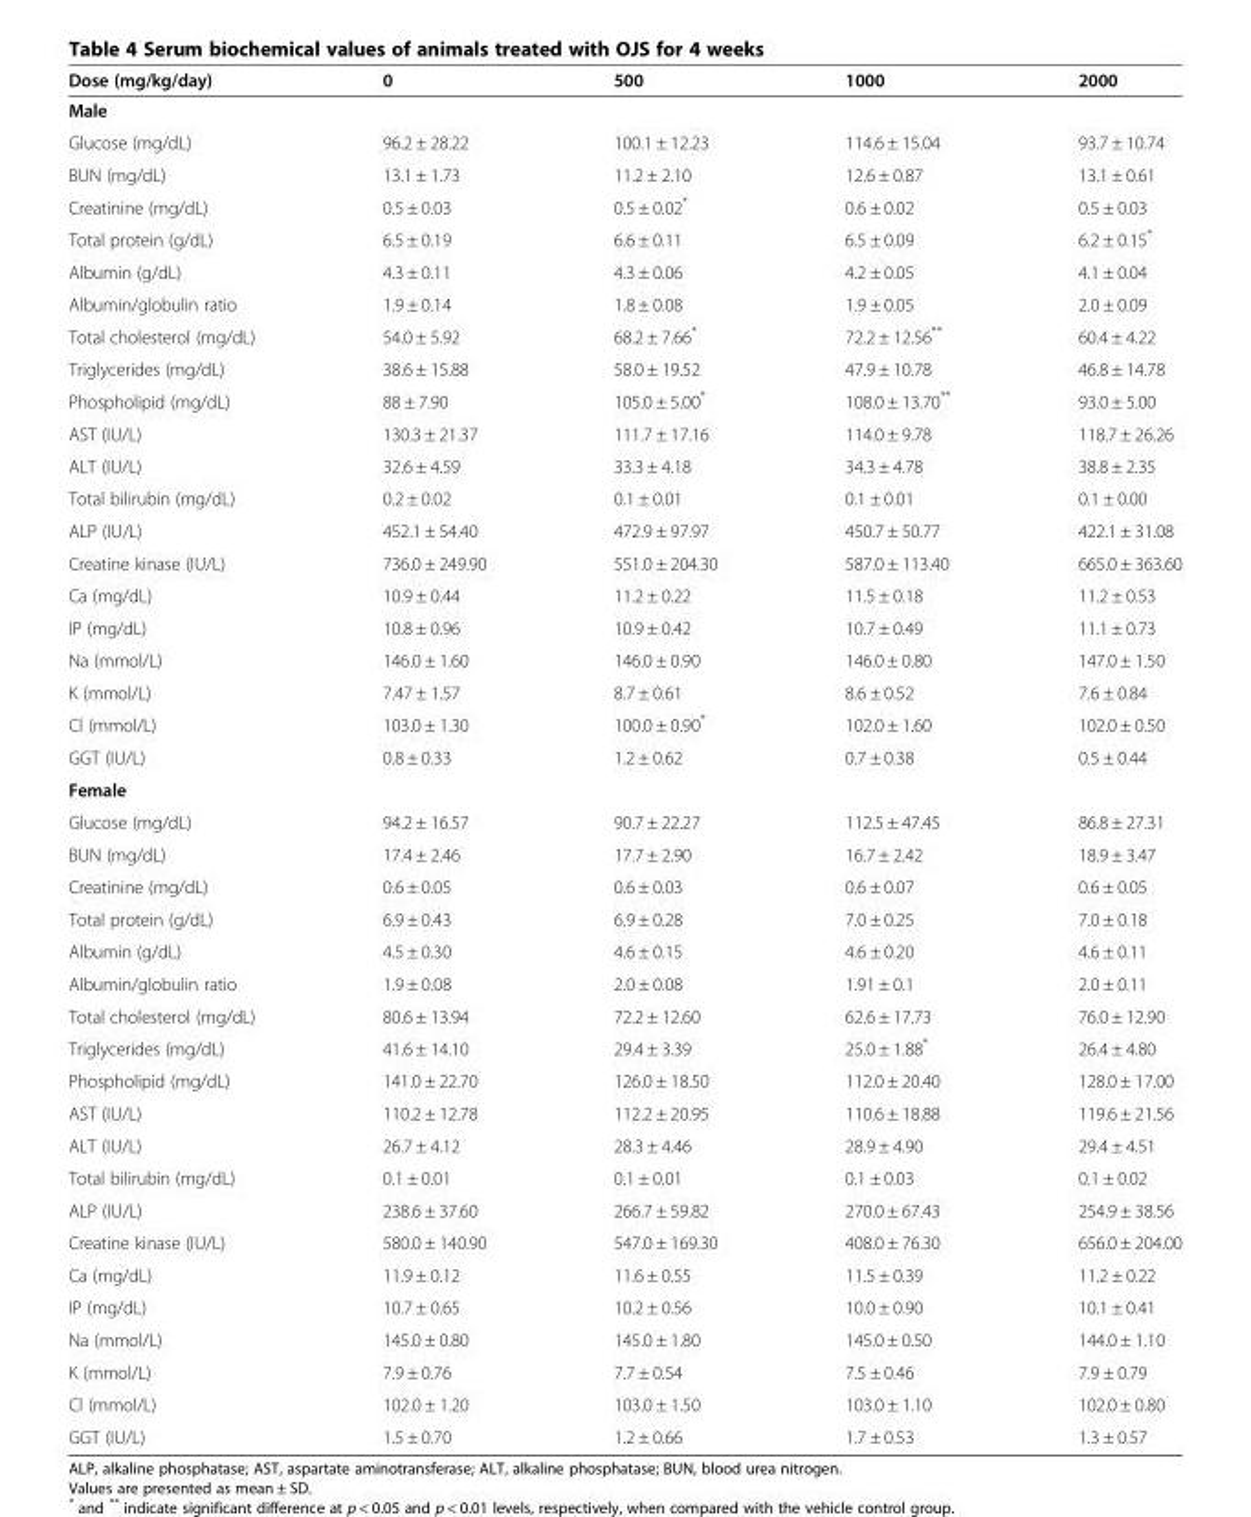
<table><thead><tr><td>Dose (mg/kg/day)</td><td>0</td><td>500</td><td>1000</td><td>2000</td></tr></thead><tbody><tr><td colspan="5">Male</td></tr><tr><td>Glucose (mg/dL)</td><td>96.2 ± 28.22</td><td>100.1 ± 12.23</td><td>114.6 ± 15.04</td><td>93.7 ± 10.74</td></tr><tr><td>BUN (mg/dL)</td><td>13.1 ± 1.73</td><td>11.2 ± 2.10</td><td>12.6 ± 0.87</td><td>13.1 ± 0.61</td></tr><tr><td>Creatinine (mg/dL)</td><td>0.5 ± 0.03</td><td>0.5 ± 0.02*</td><td>0.6 ± 0.02</td><td>0.5 ± 0.03</td></tr><tr><td>Total protein (g/dL)</td><td>6.5 ± 0.19</td><td>6.6 ± 0.11</td><td>6.5 ± 0.09</td><td>6.2 ± 0.15*</td></tr><tr><td>Albumin (g/dL)</td><td>4.3 ± 0.11</td><td>4.3 ± 0.06</td><td>4.2 ± 0.05</td><td>4.1 ± 0.04</td></tr><tr><td>Albumin/globulin ratio</td><td>1.9 ± 0.14</td><td>1.8 ± 0.08</td><td>1.9 ± 0.05</td><td>2.0 ± 0.09</td></tr><tr><td>Total cholesterol (mg/dL)</td><td>54.0 ± 5.92</td><td>68.2 ± 7.66*</td><td>72.2 ± 12.56**</td><td>60.4 ± 4.22</td></tr><tr><td>Triglycerides (mg/dL)</td><td>38.6 ± 15.88</td><td>58.0 ± 19.52</td><td>47.9 ± 10.78</td><td>46.8 ± 14.78</td></tr><tr><td>Phospholipid (mg/dL)</td><td>88 ± 7.90</td><td>105.0 ± 5.00*</td><td>108.0 ± 13.70**</td><td>93.0 ± 5.00</td></tr><tr><td>AST (IU/L)</td><td>130.3 ± 21.37</td><td>111.7 ± 17.16</td><td>114.0 ± 9.78</td><td>118.7 ± 26.26</td></tr><tr><td>ALT (IU/L)</td><td>32.6 ± 4.59</td><td>33.3 ± 4.18</td><td>34.3 ± 4.78</td><td>38.8 ± 2.35</td></tr><tr><td>Total bilirubin (mg/dL)</td><td>0.2 ± 0.02</td><td>0.1 ± 0.01</td><td>0.1 ± 0.01</td><td>0.1 ± 0.00</td></tr><tr><td>ALP (IU/L)</td><td>452.1 ± 54.40</td><td>472.9 ± 97.97</td><td>450.7 ± 50.77</td><td>422.1 ± 31.08</td></tr><tr><td>Creatine kinase (IU/L)</td><td>736.0 ± 249.90</td><td>551.0 ± 204.30</td><td>587.0 ± 113.40</td><td>665.0 ± 363.60</td></tr><tr><td>Ca (mg/dL)</td><td>10.9 ± 0.44</td><td>11.2 ± 0.22</td><td>11.5 ± 0.18</td><td>11.2 ± 0.53</td></tr><tr><td>IP (mg/dL)</td><td>10.8 ± 0.96</td><td>10.9 ± 0.42</td><td>10.7 ± 0.49</td><td>11.1 ± 0.73</td></tr><tr><td>Na (mmol/L)</td><td>146.0 ± 1.60</td><td>146.0 ± 0.90</td><td>146.0 ± 0.80</td><td>147.0 ± 1.50</td></tr><tr><td>K (mmol/L)</td><td>7.47 ± 1.57</td><td>8.7 ± 0.61</td><td>8.6 ± 0.52</td><td>7.6 ± 0.84</td></tr><tr><td>Cl (mmol/L)</td><td>103.0 ± 1.30</td><td>100.0 ± 0.90*</td><td>102.0 ± 1.60</td><td>102.0 ± 0.50</td></tr><tr><td>GGT (IU/L)</td><td>0.8 ± 0.33</td><td>1.2 ± 0.62</td><td>0.7 ± 0.38</td><td>0.5 ± 0.44</td></tr><tr><td colspan="5">Female</td></tr><tr><td>Glucose (mg/dL)</td><td>94.2 ± 16.57</td><td>90.7 ± 22.27</td><td>112.5 ± 47.45</td><td>86.8 ± 27.31</td></tr><tr><td>BUN (mg/dL)</td><td>17.4 ± 2.46</td><td>17.7 ± 2.90</td><td>16.7 ± 2.42</td><td>18.9 ± 3.47</td></tr><tr><td>Creatinine (mg/dL)</td><td>0.6 ± 0.05</td><td>0.6 ± 0.03</td><td>0.6 ± 0.07</td><td>0.6 ± 0.05</td></tr><tr><td>Total protein (g/dL)</td><td>6.9 ± 0.43</td><td>6.9 ± 0.28</td><td>7.0 ± 0.25</td><td>7.0 ± 0.18</td></tr><tr><td>Albumin (g/dL)</td><td>4.5 ± 0.30</td><td>4.6 ± 0.15</td><td>4.6 ± 0.20</td><td>4.6 ± 0.11</td></tr><tr><td>Albumin/globulin ratio</td><td>1.9 ± 0.08</td><td>2.0 ± 0.08</td><td>1.91 ± 0.1</td><td>2.0 ± 0.11</td></tr><tr><td>Total cholesterol (mg/dL)</td><td>80.6 ± 13.94</td><td>72.2 ± 12.60</td><td>62.6 ± 17.73</td><td>76.0 ± 12.90</td></tr><tr><td>Triglycerides (mg/dL)</td><td>41.6 ± 14.10</td><td>29.4 ± 3.39</td><td>25.0 ± 1.88*</td><td>26.4 ± 4.80</td></tr><tr><td>Phospholipid (mg/dL)</td><td>141.0 ± 22.70</td><td>126.0 ± 18.50</td><td>112.0 ± 20.40</td><td>128.0 ± 17.00</td></tr><tr><td>AST (IU/L)</td><td>110.2 ± 12.78</td><td>112.2 ± 20.95</td><td>110.6 ± 18.88</td><td>119.6 ± 21.56</td></tr><tr><td>ALT (IU/L)</td><td>26.7 ± 4.12</td><td>28.3 ± 4.46</td><td>28.9 ± 4.90</td><td>29.4 ± 4.51</td></tr><tr><td>Total bilirubin (mg/dL)</td><td>0.1 ± 0.01</td><td>0.1 ± 0.01</td><td>0.1 ± 0.03</td><td>0.1 ± 0.02</td></tr><tr><td>ALP (IU/L)</td><td>238.6 ± 37.60</td><td>266.7 ± 59.82</td><td>270.0 ± 67.43</td><td>254.9 ± 38.56</td></tr><tr><td>Creatine kinase (IU/L)</td><td>580.0 ± 140.90</td><td>547.0 ± 169.30</td><td>408.0 ± 76.30</td><td>656.0 ± 204.00</td></tr><tr><td>Ca (mg/dL)</td><td>11.9 ± 0.12</td><td>11.6 ± 0.55</td><td>11.5 ± 0.39</td><td>11.2 ± 0.22</td></tr><tr><td>IP (mg/dL)</td><td>10.7 ± 0.65</td><td>10.2 ± 0.56</td><td>10.0 ± 0.90</td><td>10.1 ± 0.41</td></tr><tr><td>Na (mmol/L)</td><td>145.0 ± 0.80</td><td>145.0 ± 1.80</td><td>145.0 ± 0.50</td><td>144.0 ± 1.10</td></tr><tr><td>K (mmol/L)</td><td>7.9 ± 0.76</td><td>7.7 ± 0.54</td><td>7.5 ± 0.46</td><td>7.9 ± 0.79</td></tr><tr><td>Cl (mmol/L)</td><td>102.0 ± 1.20</td><td>103.0 ± 1.50</td><td>103.0 ± 1.10</td><td>102.0 ± 0.80</td></tr><tr><td>GGT (IU/L)</td><td>1.5 ± 0.70</td><td>1.2 ± 0.66</td><td>1.7 ± 0.53</td><td>1.3 ± 0.57</td></tr></tbody></table>